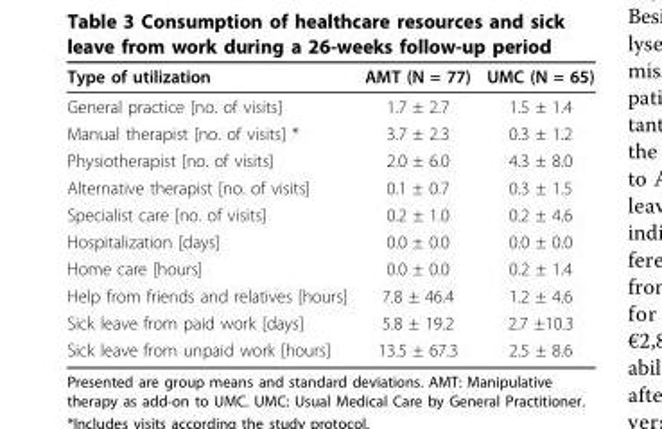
<table><thead><tr><td>Type of utilization</td><td>AMT (N = 77)</td><td>UMC (N = 65)</td></tr></thead><tbody><tr><td>General practice [no. of visits]</td><td>1.7 ± 2.7</td><td>1.5 ± 1.4</td></tr><tr><td>Manual therapist [no. of visits] *</td><td>3.7 ± 2.3</td><td>0.3 ± 1.2</td></tr><tr><td>Physiotherapist [no. of visits]</td><td>2.0 ± 6.0</td><td>4.3 ± 8.0</td></tr><tr><td>Alternative therapist [no. of visits]</td><td>0.1 ± 0.7</td><td>0.3 ± 1.5</td></tr><tr><td>Specialist care [no. of visits]</td><td>0.2 ± 1.0</td><td>0.2 ± 4.6</td></tr><tr><td>Hospitalization [days]</td><td>0.0 ± 0.0</td><td>0.0 ± 0.0</td></tr><tr><td>Home care [hours]</td><td>0.0 ± 0.0</td><td>0.2 ± 1.4</td></tr><tr><td>Help from friends and relatives [hours]</td><td>7.8 ± 46.4</td><td>1.2 ± 4.6</td></tr><tr><td>Sick leave from paid work [days]</td><td>5.8 ± 19.2</td><td>2.7 ±10.3</td></tr><tr><td>Sick leave from unpaid work [hours]</td><td>13.5 ± 67.3</td><td>2.5 ± 8.6</td></tr></tbody></table>